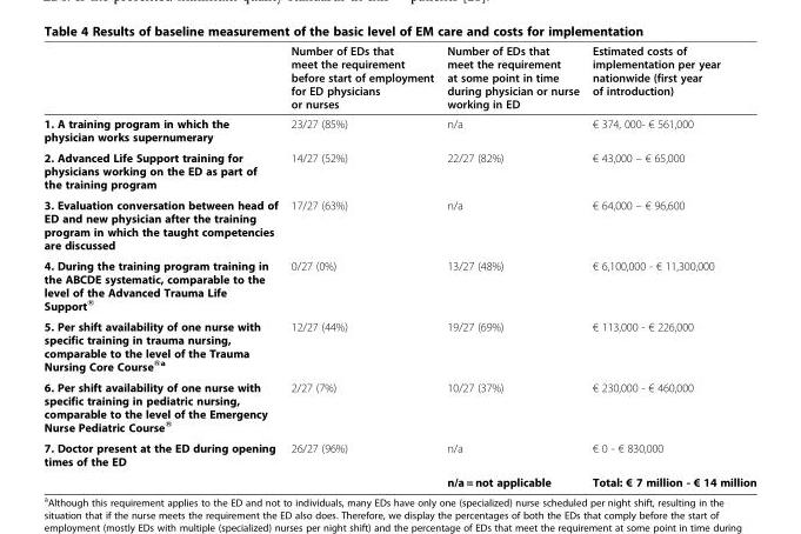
<table><thead><tr><td></td><td>Number of EDs that meet the requirement before start of employment for ED physicians or nurses</td><td>Number of EDs that meet the requirement at some point in time during physician or nurse working in ED</td><td>Estimated costs of implementation per year nationwide (first year of introduction)</td></tr></thead><tbody><tr><td>1. A training program in which the physician works supernumerary</td><td>23/27 (85%)</td><td>n/a</td><td>€ 374, 000- € 561,000</td></tr><tr><td>2. Advanced Life Support training for physicians working on the ED as part of the training program</td><td>14/27 (52%)</td><td>22/27 (82%)</td><td>€ 43,000 – € 65,000</td></tr><tr><td>3. Evaluation conversation between head of ED and new physician after the training program in which the taught competencies are discussed</td><td>17/27 (63%)</td><td>n/a</td><td>€ 64,000 – € 96,600</td></tr><tr><td>4. During the training program training in the ABCDE systematic, comparable to the level of the Advanced Trauma Life Support®</td><td>0/27 (0%)</td><td>13/27 (48%)</td><td>€ 6,100,000 - € 11,300,000</td></tr><tr><td>5. Per shift availability of one nurse with specific training in trauma nursing, comparable to the level of the Trauma Nursing Core Course®<sup>a</sup></td><td>12/27 (44%)</td><td>19/27 (69%)</td><td>€ 113,000 - € 226,000</td></tr><tr><td>6. Per shift availability of one nurse with specific training in pediatric nursing, comparable to the level of the Emergency Nurse Pediatric Course®</td><td>2/27 (7%)</td><td>10/27 (37%)</td><td>€ 230,000 - € 460,000</td></tr><tr><td rowspan="2">7. Doctor present at the ED during opening times of the ED</td><td>26/27 (96%)</td><td>n/a</td><td>€ 0 - € 830,000</td></tr><tr><td></td><td>n/a = not applicable</td><td>Total: € 7 million - € 14 million</td></tr></tbody></table>